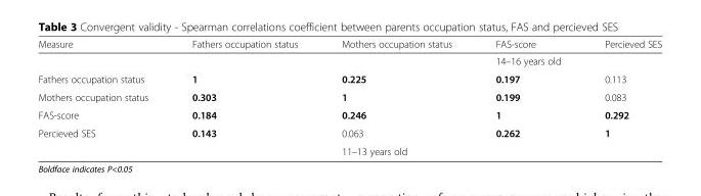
<table><thead><tr><td>Measure</td><td>Fathers occupation status</td><td>Mothers occupation status</td><td>FAS-score</td><td>Percieved SES</td></tr></thead><tbody><tr><td></td><td></td><td></td><td>14–16 years old</td><td></td></tr><tr><td>Fathers occupation status</td><td>1</td><td>0.225</td><td>0.197</td><td>0.113</td></tr><tr><td>Mothers occupation status</td><td>0.303</td><td>1</td><td>0.199</td><td>0.083</td></tr><tr><td>FAS-score</td><td>0.184</td><td>0.246</td><td>1</td><td>0.292</td></tr><tr><td rowspan="2">Percieved SES</td><td>0.143</td><td>0.063</td><td>0.262</td><td>1</td></tr><tr><td></td><td>11–13 years old</td><td></td><td></td></tr></tbody></table>